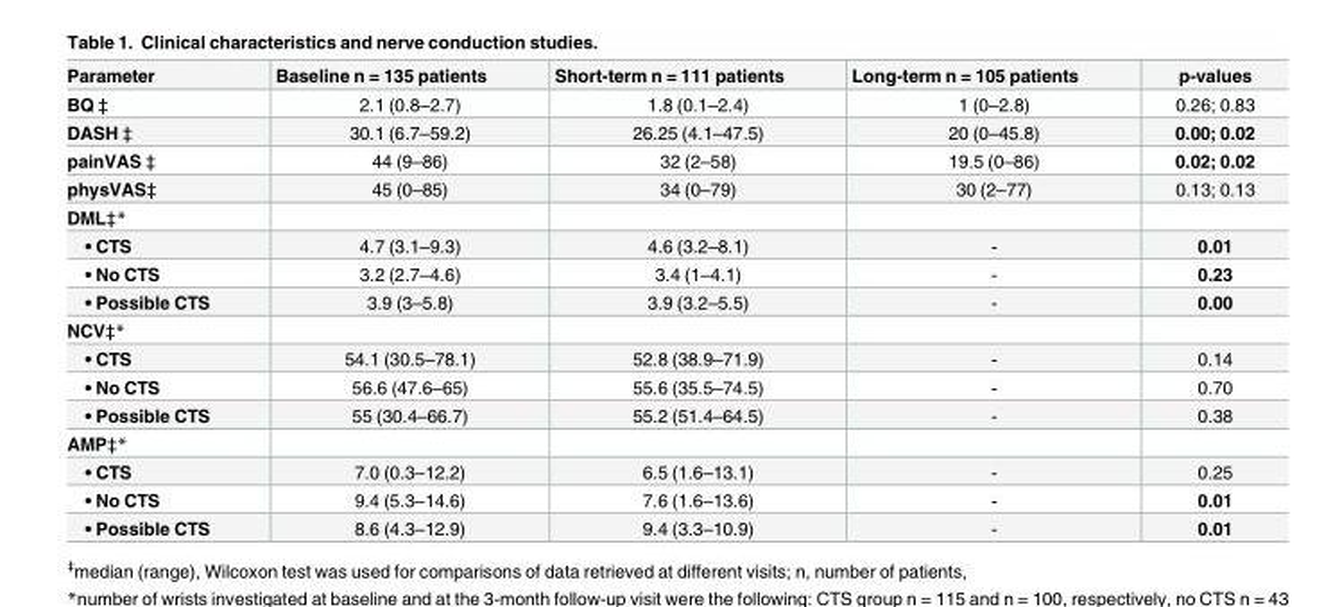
<table><thead><tr><td>Parameter</td><td>Baseline n = 135 patients</td><td>Short-term n = 111 patients</td><td>Long-term n = 105 patients</td><td>p-values</td></tr></thead><tbody><tr><td>BQ ‡</td><td>2.1 (0.8–2.7)</td><td>1.8 (0.1–2.4)</td><td>1 (0–2.8)</td><td>0.26; 0.83</td></tr><tr><td>DASH ‡</td><td>30.1 (6.7–59.2)</td><td>26.25 (4.1–47.5)</td><td>20 (0–45.8)</td><td>0.00; 0.02</td></tr><tr><td>painVAS ‡</td><td>44 (9–86)</td><td>32 (2–58)</td><td>19.5 (0–86)</td><td>0.02; 0.02</td></tr><tr><td>physVAS‡</td><td>45 (0–85)</td><td>34 (0–79)</td><td>30 (2–77)</td><td>0.13; 0.13</td></tr><tr><td colspan="5">DML‡*</td></tr><tr><td>• CTS</td><td>4.7 (3.1–9.3)</td><td>4.6 (3.2–8.1)</td><td>-</td><td>0.01</td></tr><tr><td>• No CTS</td><td>3.2 (2.7–4.6)</td><td>3.4 (1–4.1)</td><td>-</td><td>0.23</td></tr><tr><td>• Possible CTS</td><td>3.9 (3–5.8)</td><td>3.9 (3.2–5.5)</td><td>-</td><td>0.00</td></tr><tr><td colspan="5">NCV‡*</td></tr><tr><td>• CTS</td><td>54.1 (30.5–78.1)</td><td>52.8 (38.9–71.9)</td><td>-</td><td>0.14</td></tr><tr><td>• No CTS</td><td>56.6 (47.6–65)</td><td>55.6 (35.5–74.5)</td><td>-</td><td>0.70</td></tr><tr><td>• Possible CTS</td><td>55 (30.4–66.7)</td><td>55.2 (51.4–64.5)</td><td>-</td><td>0.38</td></tr><tr><td colspan="5">AMP‡*</td></tr><tr><td>• CTS</td><td>7.0 (0.3–12.2)</td><td>6.5 (1.6–13.1)</td><td>-</td><td>0.25</td></tr><tr><td>• No CTS</td><td>9.4 (5.3–14.6)</td><td>7.6 (1.6–13.6)</td><td>-</td><td>0.01</td></tr><tr><td>• Possible CTS</td><td>8.6 (4.3–12.9)</td><td>9.4 (3.3–10.9)</td><td>-</td><td>0.01</td></tr></tbody></table>